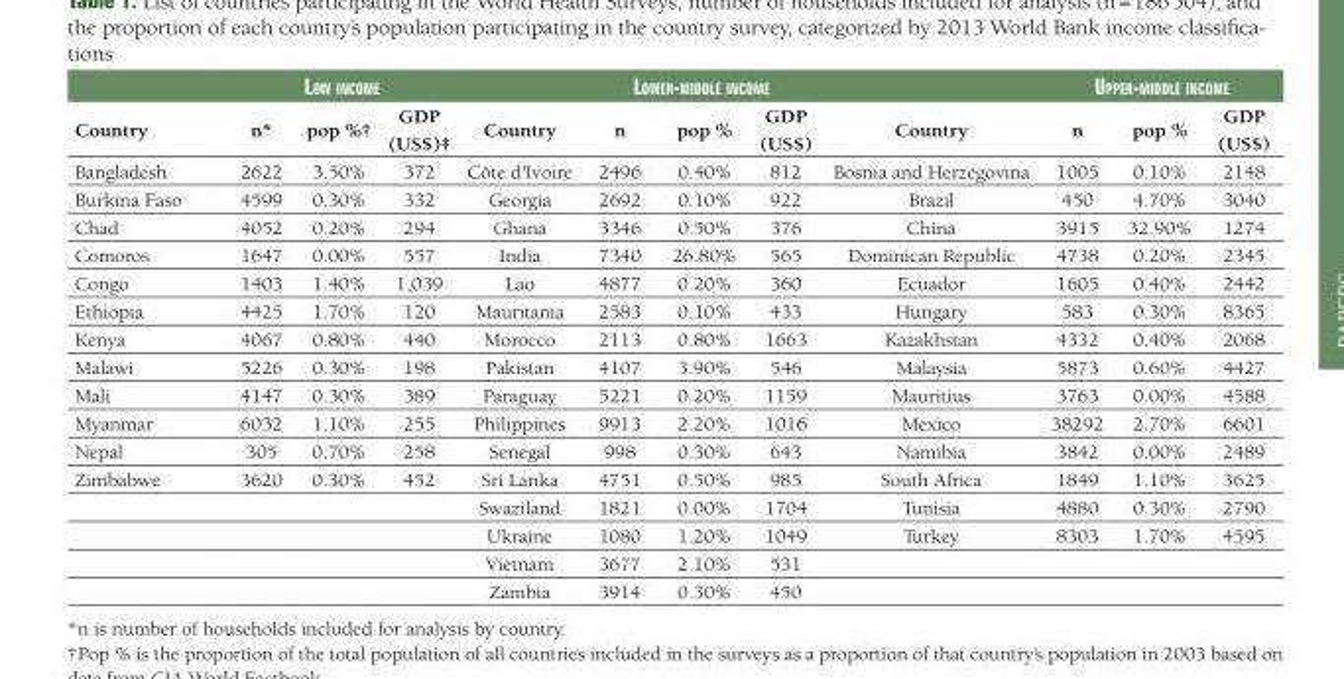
<table><thead><tr><td rowspan="2">Country</td><td colspan="3">Low income</td><td rowspan="2">Country</td><td colspan="3">Lower-middLe income</td><td rowspan="2">Country</td><td colspan="3">Upper-middLe income</td></tr><tr><td>n*</td><td>pop %†</td><td>GDP (US$)‡</td><td>n</td><td>pop %</td><td>GDP (US$)</td><td>n</td><td>pop %</td><td>GDP (US$)</td></tr></thead><tbody><tr><td>Bangladesh</td><td>2622</td><td>3.50%</td><td>372</td><td>Côte d&#x27;Ivoire</td><td>2496</td><td>0.40%</td><td>812</td><td>Bosnia and Herzegovina</td><td>1005</td><td>0.10%</td><td>2148</td></tr><tr><td>Burkina Faso</td><td>4599</td><td>0.30%</td><td>332</td><td>Georgia</td><td>2692</td><td>0.10%</td><td>922</td><td>Brazil</td><td>450</td><td>4.70%</td><td>3040</td></tr><tr><td>Chad</td><td>4052</td><td>0.20%</td><td>294</td><td>Ghana</td><td>3346</td><td>0.50%</td><td>376</td><td>China</td><td>3915</td><td>32.90%</td><td>1274</td></tr><tr><td>Comoros</td><td>1647</td><td>0.00%</td><td>557</td><td>India</td><td>7340</td><td>26.80%</td><td>565</td><td>Dominican Republic</td><td>4738</td><td>0.20%</td><td>2345</td></tr><tr><td>Congo</td><td>1403</td><td>1.40%</td><td>1,039</td><td>Lao</td><td>4877</td><td>0.20%</td><td>360</td><td>Ecuador</td><td>1605</td><td>0.40%</td><td>2442</td></tr><tr><td>Ethiopia</td><td>4425</td><td>1.70%</td><td>120</td><td>Mauritania</td><td>2583</td><td>0.10%</td><td>433</td><td>Hungary</td><td>583</td><td>0.30%</td><td>8365</td></tr><tr><td>Kenya</td><td>4067</td><td>0.80%</td><td>440</td><td>Morocco</td><td>2113</td><td>0.80%</td><td>1663</td><td>Kazakhstan</td><td>4332</td><td>0.40%</td><td>2068</td></tr><tr><td>Malawi</td><td>5226</td><td>0.30%</td><td>198</td><td>Pakistan</td><td>4107</td><td>3.90%</td><td>546</td><td>Malaysia</td><td>5873</td><td>0.60%</td><td>4427</td></tr><tr><td>Mali</td><td>4147</td><td>0.30%</td><td>389</td><td>Paraguay</td><td>5221</td><td>0.20%</td><td>1159</td><td>Mauritius</td><td>3763</td><td>0.00%</td><td>4588</td></tr><tr><td>Myanmar</td><td>6032</td><td>1.10%</td><td>255</td><td>Philippines</td><td>9913</td><td>2.20%</td><td>1016</td><td>Mexico</td><td>38292</td><td>2.70%</td><td>6601</td></tr><tr><td>Nepal</td><td>305</td><td>0.70%</td><td>258</td><td>Senegal</td><td>998</td><td>0.30%</td><td>643</td><td>Namibia</td><td>3842</td><td>0.00%</td><td>2489</td></tr><tr><td rowspan="5">Zimbabwe</td><td>3620</td><td>0.30%</td><td>452</td><td>Sri Lanka</td><td>4751</td><td>0.50%</td><td>985</td><td>South Africa</td><td>1849</td><td>1.10%</td><td>3625</td></tr><tr><td></td><td></td><td></td><td>Swaziland</td><td>1821</td><td>0.00%</td><td>1704</td><td>Tunisia</td><td>4880</td><td>0.30%</td><td>2790</td></tr><tr><td></td><td></td><td></td><td>Ukraine</td><td>1080</td><td>1.20%</td><td>1049</td><td>Turkey</td><td>8303</td><td>1.70%</td><td>4595</td></tr><tr><td></td><td></td><td></td><td>Vietnam</td><td>3677</td><td>2.10%</td><td>531</td><td></td><td></td><td></td><td></td></tr><tr><td></td><td></td><td></td><td>Zambia</td><td>3914</td><td>0.30%</td><td>450</td><td></td><td></td><td></td><td></td></tr></tbody></table>